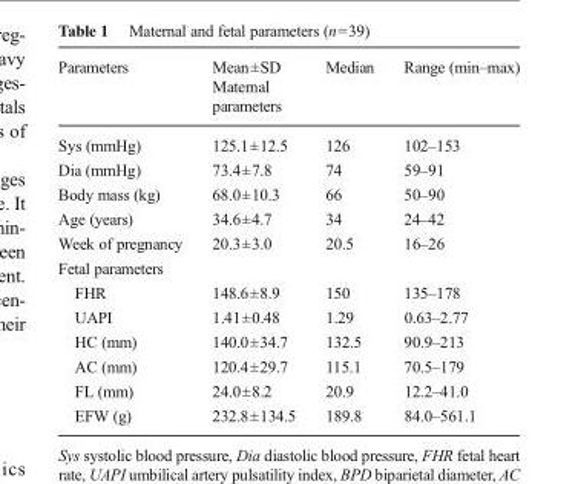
<table><thead><tr><td rowspan="2">Parameters</td><td>Mean±SD</td><td>Median</td><td>Range (min–max)</td></tr><tr><td colspan="3">Maternal parameters</td></tr></thead><tbody><tr><td>Sys (mmHg)</td><td>125.1±12.5</td><td>126</td><td>102–153</td></tr><tr><td>Dia (mmHg)</td><td>73.4±7.8</td><td>74</td><td>59–91</td></tr><tr><td>Body mass (kg)</td><td>68.0±10.3</td><td>66</td><td>50–90</td></tr><tr><td>Age (years)</td><td>34.6±4.7</td><td>34</td><td>24–42</td></tr><tr><td>Week of pregnancy</td><td>20.3±3.0</td><td>20.5</td><td>16–26</td></tr><tr><td colspan="4">Fetal parameters</td></tr><tr><td>FHR</td><td>148.6±8.9</td><td>150</td><td>135–178</td></tr><tr><td>UAPI</td><td>1.41±0.48</td><td>1.29</td><td>0.63–2.77</td></tr><tr><td>HC (mm)</td><td>140.0±34.7</td><td>132.5</td><td>90.9–213</td></tr><tr><td>AC (mm)</td><td>120.4±29.7</td><td>115.1</td><td>70.5–179</td></tr><tr><td>FL (mm)</td><td>24.0±8.2</td><td>20.9</td><td>12.2–41.0</td></tr><tr><td>EFW (g)</td><td>232.8±134.5</td><td>189.8</td><td>84.0–561.1</td></tr></tbody></table>